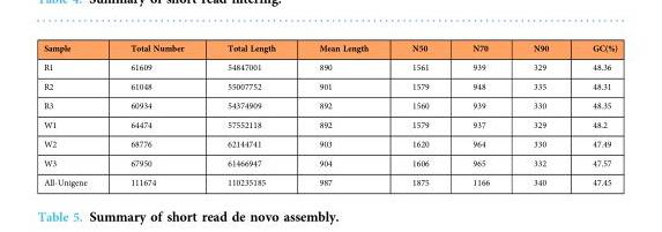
<table><thead><tr><td>Sample</td><td>Total Number</td><td>Total Length</td><td>Mean Length</td><td>N50</td><td>N70</td><td>N90</td><td>GC(%)</td></tr></thead><tbody><tr><td>R1</td><td>61609</td><td>54847001</td><td>890</td><td>1561</td><td>939</td><td>329</td><td>48.36</td></tr><tr><td>R2</td><td>61048</td><td>55007752</td><td>901</td><td>1579</td><td>948</td><td>335</td><td>48.31</td></tr><tr><td>R3</td><td>60934</td><td>54374909</td><td>892</td><td>1560</td><td>939</td><td>330</td><td>48.35</td></tr><tr><td>W1</td><td>64474</td><td>57552118</td><td>892</td><td>1579</td><td>937</td><td>329</td><td>48.2</td></tr><tr><td>W2</td><td>68776</td><td>62144741</td><td>903</td><td>1620</td><td>964</td><td>330</td><td>47.49</td></tr><tr><td>W3</td><td>67950</td><td>61466947</td><td>904</td><td>1606</td><td>965</td><td>332</td><td>47.57</td></tr><tr><td>All-Unigene</td><td>111674</td><td>110235185</td><td>987</td><td>1875</td><td>1166</td><td>340</td><td>47.45</td></tr></tbody></table>